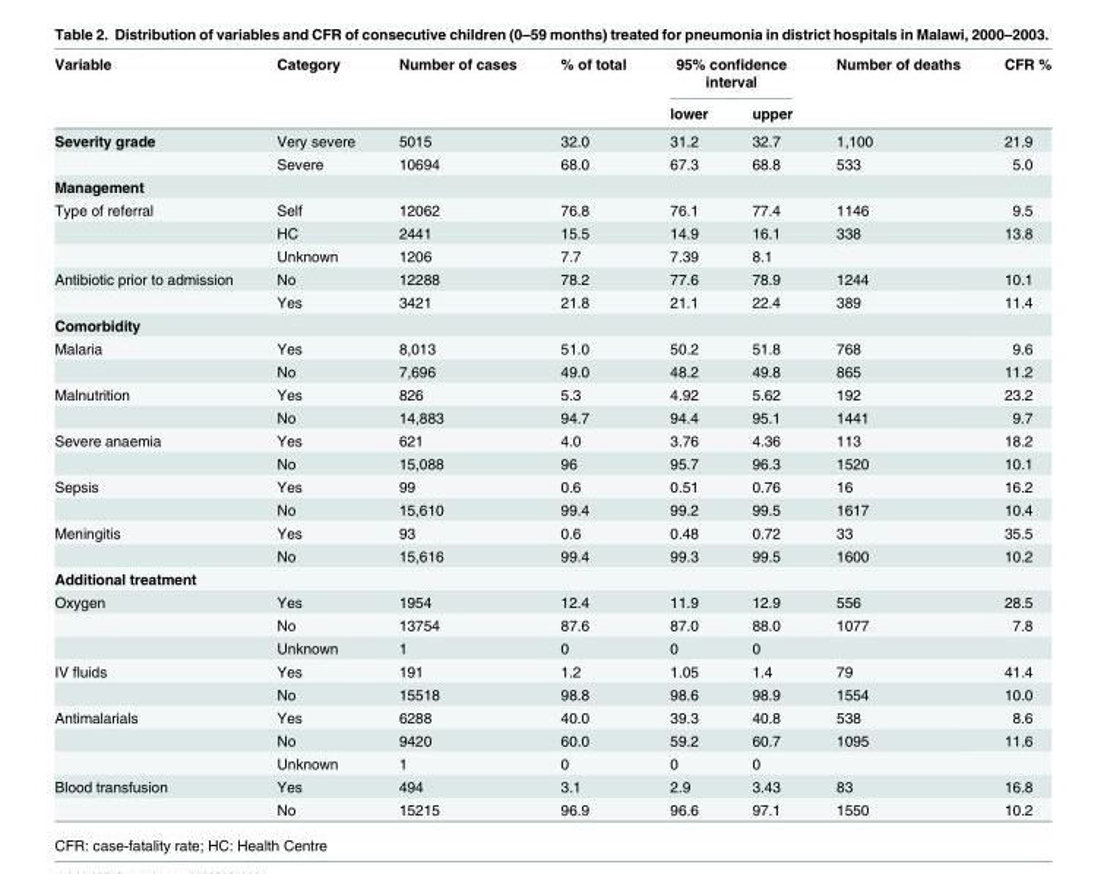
<table><thead><tr><td rowspan="2">Variable</td><td rowspan="2">Category</td><td rowspan="2">Number of cases</td><td rowspan="2">% of total</td><td colspan="2">95% confidence interval</td><td rowspan="2">Number of deaths</td><td rowspan="2">CFR %</td></tr><tr><td>lower</td><td>upper</td></tr></thead><tbody><tr><td rowspan="2">Severity grade</td><td>Very severe</td><td>5015</td><td>32.0</td><td>31.2</td><td>32.7</td><td>1,100</td><td>21.9</td></tr><tr><td>Severe</td><td>10694</td><td>68.0</td><td>67.3</td><td>68.8</td><td>533</td><td>5.0</td></tr><tr><td colspan="8">Management</td></tr><tr><td rowspan="3">Type of referral</td><td>Self</td><td>12062</td><td>76.8</td><td>76.1</td><td>77.4</td><td>1146</td><td>9.5</td></tr><tr><td>HC</td><td>2441</td><td>15.5</td><td>14.9</td><td>16.1</td><td>338</td><td>13.8</td></tr><tr><td>Unknown</td><td>1206</td><td>7.7</td><td>7.39</td><td>8.1</td><td></td><td></td></tr><tr><td rowspan="2">Antibiotic prior to admission</td><td>No</td><td>12288</td><td>78.2</td><td>77.6</td><td>78.9</td><td>1244</td><td>10.1</td></tr><tr><td>Yes</td><td>3421</td><td>21.8</td><td>21.1</td><td>22.4</td><td>389</td><td>11.4</td></tr><tr><td colspan="8">Comorbidity</td></tr><tr><td rowspan="2">Malaria</td><td>Yes</td><td>8,013</td><td>51.0</td><td>50.2</td><td>51.8</td><td>768</td><td>9.6</td></tr><tr><td>No</td><td>7,696</td><td>49.0</td><td>48.2</td><td>49.8</td><td>865</td><td>11.2</td></tr><tr><td rowspan="2">Malnutrition</td><td>Yes</td><td>826</td><td>5.3</td><td>4.92</td><td>5.62</td><td>192</td><td>23.2</td></tr><tr><td>No</td><td>14,883</td><td>94.7</td><td>94.4</td><td>95.1</td><td>1441</td><td>9.7</td></tr><tr><td rowspan="2">Severe anaemia</td><td>Yes</td><td>621</td><td>4.0</td><td>3.76</td><td>4.36</td><td>113</td><td>18.2</td></tr><tr><td>No</td><td>15,088</td><td>96</td><td>95.7</td><td>96.3</td><td>1520</td><td>10.1</td></tr><tr><td rowspan="2">Sepsis</td><td>Yes</td><td>99</td><td>0.6</td><td>0.51</td><td>0.76</td><td>16</td><td>16.2</td></tr><tr><td>No</td><td>15,610</td><td>99.4</td><td>99.2</td><td>99.5</td><td>1617</td><td>10.4</td></tr><tr><td rowspan="2">Meningitis</td><td>Yes</td><td>93</td><td>0.6</td><td>0.48</td><td>0.72</td><td>33</td><td>35.5</td></tr><tr><td>No</td><td>15,616</td><td>99.4</td><td>99.3</td><td>99.5</td><td>1600</td><td>10.2</td></tr><tr><td colspan="8">Additional treatment</td></tr><tr><td rowspan="3">Oxygen</td><td>Yes</td><td>1954</td><td>12.4</td><td>11.9</td><td>12.9</td><td>556</td><td>28.5</td></tr><tr><td>No</td><td>13754</td><td>87.6</td><td>87.0</td><td>88.0</td><td>1077</td><td>7.8</td></tr><tr><td>Unknown</td><td>1</td><td>0</td><td>0</td><td>0</td><td></td><td></td></tr><tr><td rowspan="2">IV fluids</td><td>Yes</td><td>191</td><td>1.2</td><td>1.05</td><td>1.4</td><td>79</td><td>41.4</td></tr><tr><td>No</td><td>15518</td><td>98.8</td><td>98.6</td><td>98.9</td><td>1554</td><td>10.0</td></tr><tr><td rowspan="3">Antimalarials</td><td>Yes</td><td>6288</td><td>40.0</td><td>39.3</td><td>40.8</td><td>538</td><td>8.6</td></tr><tr><td>No</td><td>9420</td><td>60.0</td><td>59.2</td><td>60.7</td><td>1095</td><td>11.6</td></tr><tr><td>Unknown</td><td>1</td><td>0</td><td>0</td><td>0</td><td></td><td></td></tr><tr><td rowspan="2">Blood transfusion</td><td>Yes</td><td>494</td><td>3.1</td><td>2.9</td><td>3.43</td><td>83</td><td>16.8</td></tr><tr><td>No</td><td>15215</td><td>96.9</td><td>96.6</td><td>97.1</td><td>1550</td><td>10.2</td></tr></tbody></table>